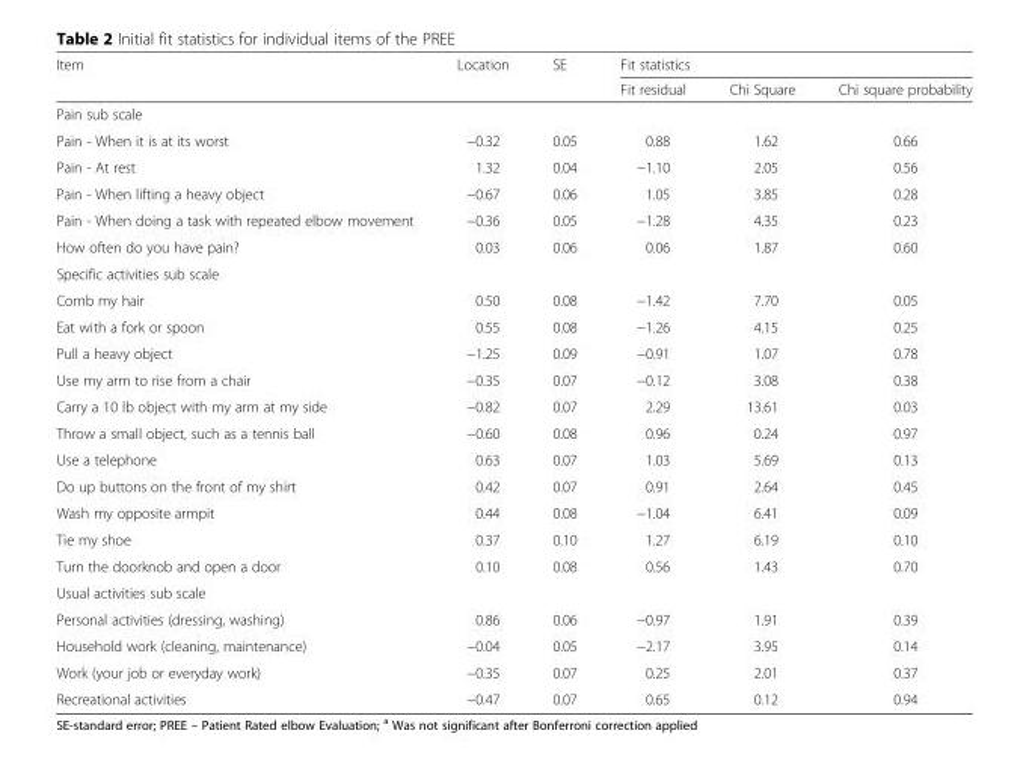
<table><thead><tr><td rowspan="2">Item</td><td rowspan="2">Location</td><td rowspan="2">SE</td><td colspan="3">Fit statistics</td></tr><tr><td>Fit residual</td><td>Chi Square</td><td>Chi square probability</td></tr></thead><tbody><tr><td colspan="6">Pain sub scale</td></tr><tr><td>Pain - When it is at its worst</td><td>−0.32</td><td>0.05</td><td>0.88</td><td>1.62</td><td>0.66</td></tr><tr><td>Pain - At rest</td><td>1.32</td><td>0.04</td><td>−1.10</td><td>2.05</td><td>0.56</td></tr><tr><td>Pain - When lifting a heavy object</td><td>−0.67</td><td>0.06</td><td>1.05</td><td>3.85</td><td>0.28</td></tr><tr><td>Pain - When doing a task with repeated elbow movement</td><td>−0.36</td><td>0.05</td><td>−1.28</td><td>4.35</td><td>0.23</td></tr><tr><td>How often do you have pain?</td><td>0.03</td><td>0.06</td><td>0.06</td><td>1.87</td><td>0.60</td></tr><tr><td colspan="6">Specific activities sub scale</td></tr><tr><td>Comb my hair</td><td>0.50</td><td>0.08</td><td>−1.42</td><td>7.70</td><td>0.05</td></tr><tr><td>Eat with a fork or spoon</td><td>0.55</td><td>0.08</td><td>−1.26</td><td>4.15</td><td>0.25</td></tr><tr><td>Pull a heavy object</td><td>−1.25</td><td>0.09</td><td>−0.91</td><td>1.07</td><td>0.78</td></tr><tr><td>Use my arm to rise from a chair</td><td>−0.35</td><td>0.07</td><td>−0.12</td><td>3.08</td><td>0.38</td></tr><tr><td>Carry a 10 lb object with my arm at my side</td><td>−0.82</td><td>0.07</td><td>2.29</td><td>13.61</td><td>0.03</td></tr><tr><td>Throw a small object, such as a tennis ball</td><td>−0.60</td><td>0.08</td><td>0.96</td><td>0.24</td><td>0.97</td></tr><tr><td>Use a telephone</td><td>0.63</td><td>0.07</td><td>1.03</td><td>5.69</td><td>0.13</td></tr><tr><td>Do up buttons on the front of my shirt</td><td>0.42</td><td>0.07</td><td>0.91</td><td>2.64</td><td>0.45</td></tr><tr><td>Wash my opposite armpit</td><td>0.44</td><td>0.08</td><td>−1.04</td><td>6.41</td><td>0.09</td></tr><tr><td>Tie my shoe</td><td>0.37</td><td>0.10</td><td>1.27</td><td>6.19</td><td>0.10</td></tr><tr><td>Turn the doorknob and open a door</td><td>0.10</td><td>0.08</td><td>0.56</td><td>1.43</td><td>0.70</td></tr><tr><td colspan="6">Usual activities sub scale</td></tr><tr><td>Personal activities (dressing, washing)</td><td>0.86</td><td>0.06</td><td>−0.97</td><td>1.91</td><td>0.39</td></tr><tr><td>Household work (cleaning, maintenance)</td><td>−0.04</td><td>0.05</td><td>−2.17</td><td>3.95</td><td>0.14</td></tr><tr><td>Work (your job or everyday work)</td><td>−0.35</td><td>0.07</td><td>0.25</td><td>2.01</td><td>0.37</td></tr><tr><td>Recreational activities</td><td>−0.47</td><td>0.07</td><td>0.65</td><td>0.12</td><td>0.94</td></tr></tbody></table>